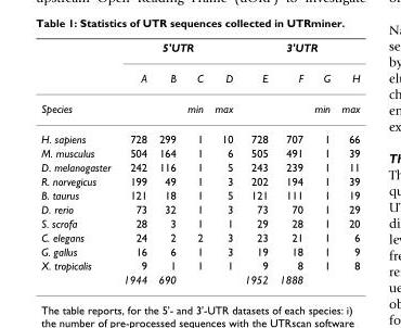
<table><thead><tr><td rowspan="2"></td><td colspan="4">5&#x27;UTR</td><td colspan="4">3&#x27;UTR</td></tr><tr><td>A</td><td>B</td><td>C</td><td>D</td><td>E</td><td>F</td><td>G</td><td>H</td></tr></thead><tbody><tr><td>Species</td><td></td><td></td><td>min</td><td>max</td><td></td><td></td><td>min</td><td>max</td></tr><tr><td>H. sapiens</td><td>728</td><td>299</td><td>1</td><td>10</td><td>728</td><td>707</td><td>1</td><td>66</td></tr><tr><td>M. musculus</td><td>504</td><td>164</td><td>1</td><td>6</td><td>505</td><td>491</td><td>1</td><td>39</td></tr><tr><td>D. melanogaster</td><td>242</td><td>116</td><td>1</td><td>5</td><td>243</td><td>239</td><td>1</td><td>11</td></tr><tr><td>R. norvegicus</td><td>199</td><td>49</td><td>1</td><td>3</td><td>202</td><td>194</td><td>1</td><td>39</td></tr><tr><td>B. taurus</td><td>121</td><td>18</td><td>1</td><td>5</td><td>121</td><td>111</td><td>1</td><td>19</td></tr><tr><td>D. rerio</td><td>73</td><td>32</td><td>1</td><td>3</td><td>73</td><td>70</td><td>1</td><td>29</td></tr><tr><td>S. scrofa</td><td>28</td><td>3</td><td>1</td><td>1</td><td>29</td><td>28</td><td>1</td><td>20</td></tr><tr><td>C. elegans</td><td>24</td><td>2</td><td>2</td><td>3</td><td>23</td><td>21</td><td>1</td><td>6</td></tr><tr><td>G. gallus</td><td>16</td><td>6</td><td>1</td><td>3</td><td>19</td><td>18</td><td>1</td><td>9</td></tr><tr><td rowspan="2">X. tropicalis</td><td>9</td><td>1</td><td>1</td><td>1</td><td>9</td><td>8</td><td>1</td><td>8</td></tr><tr><td>1944</td><td>690</td><td></td><td></td><td>1952</td><td>1888</td><td></td><td></td></tr></tbody></table>